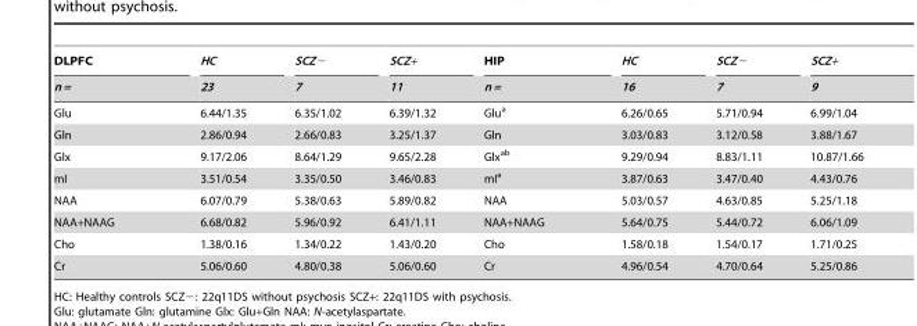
<table><thead><tr><td rowspan="2">DLPFC n =</td><td rowspan="2">HC 23</td><td rowspan="2">SCZ− 7</td><td rowspan="2">SCZ+ 11</td><td rowspan="2">HIP n =</td><td rowspan="2">HC 16</td><td rowspan="2">SCZ− 7</td><td rowspan="2">SCZ+ 9</td></tr><tr></tr></thead><tbody><tr><td>Glu</td><td>6.44/1.35</td><td>6.35/1.02</td><td>6.39/1.32</td><td>Glu<sup>a</sup></td><td>6.26/0.65</td><td>5.71/0.94</td><td>6.99/1.04</td></tr><tr><td>Gln</td><td>2.86/0.94</td><td>2.66/0.83</td><td>3.25/1.37</td><td>Gln</td><td>3.03/0.83</td><td>3.12/0.58</td><td>3.88/1.67</td></tr><tr><td>Glx</td><td>9.17/2.06</td><td>8.64/1.29</td><td>9.65/2.28</td><td>Glx<sup>ab</sup></td><td>9.29/0.94</td><td>8.83/1.11</td><td>10.87/1.66</td></tr><tr><td>mI</td><td>3.51/0.54</td><td>3.35/0.50</td><td>3.46/0.83</td><td>mI<sup>a</sup></td><td>3.87/0.63</td><td>3.47/0.40</td><td>4.43/0.76</td></tr><tr><td>NAA</td><td>6.07/0.79</td><td>5.38/0.63</td><td>5.89/0.82</td><td>NAA</td><td>5.03/0.57</td><td>4.63/0.85</td><td>5.25/1.18</td></tr><tr><td>NAA+NAAG</td><td>6.68/0.82</td><td>5.96/0.92</td><td>6.41/1.11</td><td>NAA+NAAG</td><td>5.64/0.75</td><td>5.44/0.72</td><td>6.06/1.09</td></tr><tr><td>Cho</td><td>1.38/0.16</td><td>1.34/0.22</td><td>1.43/0.20</td><td>Cho</td><td>1.58/0.18</td><td>1.54/0.17</td><td>1.71/0.25</td></tr><tr><td>Cr</td><td>5.06/0.60</td><td>4.80/0.38</td><td>5.06/0.60</td><td>Cr</td><td>4.96/0.54</td><td>4.70/0.64</td><td>5.25/0.86</td></tr></tbody></table>